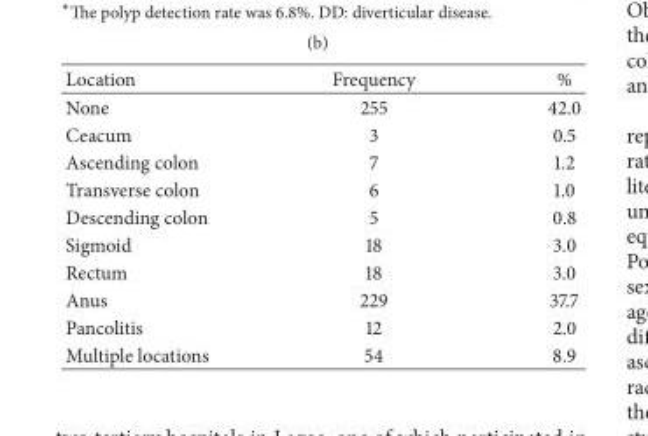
<table><thead><tr><td>Location</td><td>Frequency</td><td>%</td></tr></thead><tbody><tr><td>None</td><td>255</td><td>42.0</td></tr><tr><td>Ceacum</td><td>3</td><td>0.5</td></tr><tr><td>Ascending colon</td><td>7</td><td>1.2</td></tr><tr><td>Transverse colon</td><td>6</td><td>1.0</td></tr><tr><td>Descending colon</td><td>5</td><td>0.8</td></tr><tr><td>Sigmoid</td><td>18</td><td>3.0</td></tr><tr><td>Rectum</td><td>18</td><td>3.0</td></tr><tr><td>Anus</td><td>229</td><td>37.7</td></tr><tr><td>Pancolitis</td><td>12</td><td>2.0</td></tr><tr><td>Multiple locations</td><td>54</td><td>8.9</td></tr></tbody></table>